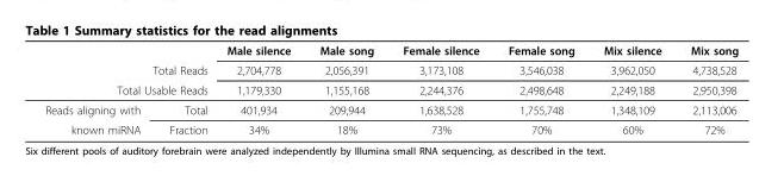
<table><thead><tr><td></td><td></td><td rowspan="3">Male silence 2,704,778 1,179,330</td><td rowspan="3">Male song 2,056,391 1,155,168</td><td rowspan="3">Female silence 3,173,108 2,244,376</td><td rowspan="3">Female song 3,546,038 2,498,648</td><td rowspan="3">Mix silence 3,962,050 2,249,188</td><td rowspan="3">Mix song 4,738,528 2,950,398</td></tr><tr><td rowspan="2" colspan="2">Total Reads Total Usable Reads</td></tr><tr></tr></thead><tbody><tr><td>Reads aligning with</td><td>Total</td><td>401,934</td><td>209,944</td><td>1,638,528</td><td>1,755,748</td><td>1,348,109</td><td>2,113,006</td></tr><tr><td>known miRNA</td><td>Fraction</td><td>34%</td><td>18%</td><td>73%</td><td>70%</td><td>60%</td><td>72%</td></tr></tbody></table>